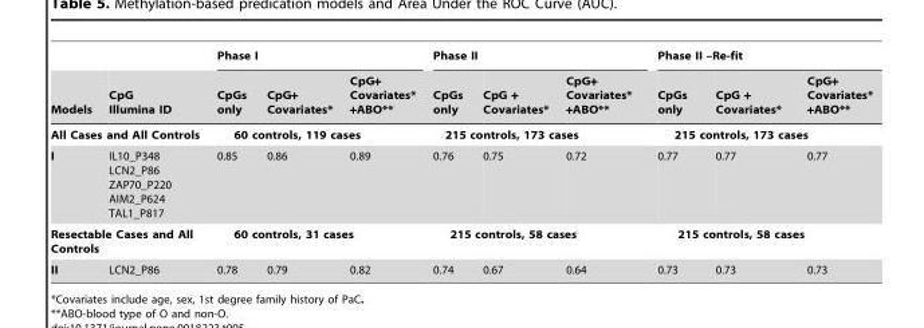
<table><thead><tr><td rowspan="2">Models</td><td rowspan="2">CpG Illumina ID</td><td colspan="3">Phase I</td><td colspan="3">Phase II</td><td colspan="3">Phase II –Re-fit</td></tr><tr><td>CpGs only</td><td>CpG+ Covariates*</td><td>CpG+ Covariates* +ABO**</td><td>CpGs only</td><td>CpG + Covariates*</td><td>CpG+ Covariates* +ABO**</td><td>CpGs only</td><td>CpG + Covariates*</td><td>CpG+ Covariates* +ABO**</td></tr></thead><tbody><tr><td colspan="2">All Cases and All Controls</td><td colspan="3">60 controls, 119 cases</td><td colspan="3">215 controls, 173 cases</td><td colspan="3">215 controls, 173 cases</td></tr><tr><td>I</td><td>IL10_P348 LCN2_P86 ZAP70_P220 AIM2_P624 TAL1_P817</td><td>0.85</td><td>0.86</td><td>0.89</td><td>0.76</td><td>0.75</td><td>0.72</td><td>0.77</td><td>0.77</td><td>0.77</td></tr><tr><td colspan="2">Resectable Cases and All Controls</td><td colspan="3">60 controls, 31 cases</td><td colspan="3">215 controls, 58 cases</td><td colspan="3">215 controls, 58 cases</td></tr><tr><td>II</td><td>LCN2_P86</td><td>0.78</td><td>0.79</td><td>0.82</td><td>0.74</td><td>0.67</td><td>0.64</td><td>0.73</td><td>0.73</td><td>0.73</td></tr></tbody></table>